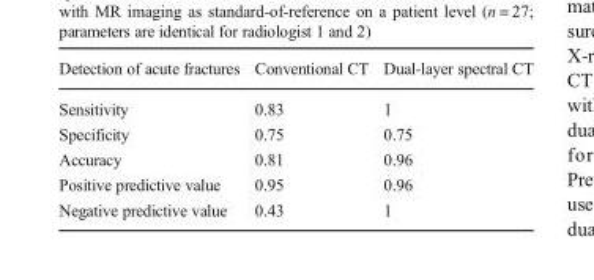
<table><thead><tr><td>Detection of acute fractures</td><td>Conventional CT</td><td>Dual-layer spectral CT</td></tr></thead><tbody><tr><td>Sensitivity</td><td>0.83</td><td>1</td></tr><tr><td>Specificity</td><td>0.75</td><td>0.75</td></tr><tr><td>Accuracy</td><td>0.81</td><td>0.96</td></tr><tr><td>Positive predictive value</td><td>0.95</td><td>0.96</td></tr><tr><td>Negative predictive value</td><td>0.43</td><td>1</td></tr></tbody></table>